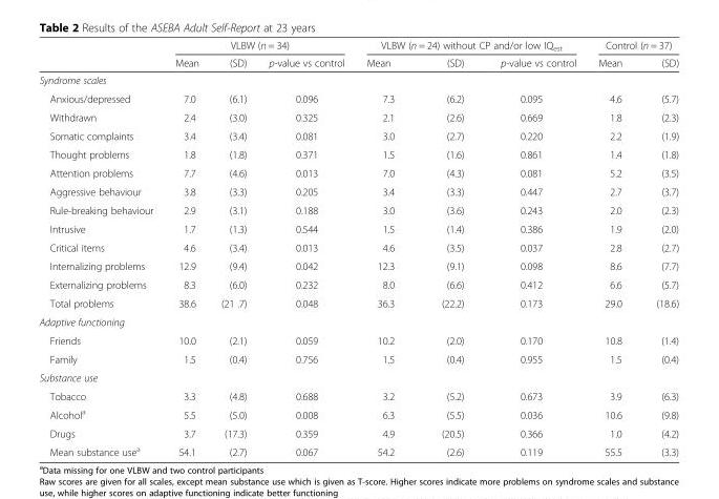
<table><thead><tr><td rowspan="2"></td><td colspan="3">VLBW (n = 34)</td><td colspan="3">VLBW (n = 24) without CP and/or low IQ<sub>est</sub></td><td colspan="2">Control (n = 37)</td></tr><tr><td>Mean</td><td>(SD)</td><td>p-value vs control</td><td>Mean</td><td>(SD)</td><td>p-value vs control</td><td>Mean</td><td>(SD)</td></tr></thead><tbody><tr><td colspan="9">Syndrome scales</td></tr><tr><td>Anxious/depressed</td><td>7.0</td><td>(6.1)</td><td>0.096</td><td>7.3</td><td>(6.2)</td><td>0.095</td><td>4.6</td><td>(5.7)</td></tr><tr><td>Withdrawn</td><td>2.4</td><td>(3.0)</td><td>0.325</td><td>2.1</td><td>(2.6)</td><td>0.669</td><td>1.8</td><td>(2.3)</td></tr><tr><td>Somatic complaints</td><td>3.4</td><td>(3.4)</td><td>0.081</td><td>3.0</td><td>(2.7)</td><td>0.220</td><td>2.2</td><td>(1.9)</td></tr><tr><td>Thought problems</td><td>1.8</td><td>(1.8)</td><td>0.371</td><td>1.5</td><td>(1.6)</td><td>0.861</td><td>1.4</td><td>(1.8)</td></tr><tr><td>Attention problems</td><td>7.7</td><td>(4.6)</td><td>0.013</td><td>7.0</td><td>(4.3)</td><td>0.081</td><td>5.2</td><td>(3.5)</td></tr><tr><td>Aggressive behaviour</td><td>3.8</td><td>(3.3)</td><td>0.205</td><td>3.4</td><td>(3.3)</td><td>0.447</td><td>2.7</td><td>(3.7)</td></tr><tr><td>Rule-breaking behaviour</td><td>2.9</td><td>(3.1)</td><td>0.188</td><td>3.0</td><td>(3.6)</td><td>0.243</td><td>2.0</td><td>(2.3)</td></tr><tr><td>Intrusive</td><td>1.7</td><td>(1.3)</td><td>0.544</td><td>1.5</td><td>(1.4)</td><td>0.386</td><td>1.9</td><td>(2.0)</td></tr><tr><td>Critical items</td><td>4.6</td><td>(3.4)</td><td>0.013</td><td>4.6</td><td>(3.5)</td><td>0.037</td><td>2.8</td><td>(2.7)</td></tr><tr><td>Internalizing problems</td><td>12.9</td><td>(9.4)</td><td>0.042</td><td>12.3</td><td>(9.1)</td><td>0.098</td><td>8.6</td><td>(7.7)</td></tr><tr><td>Externalizing problems</td><td>8.3</td><td>(6.0)</td><td>0.232</td><td>8.0</td><td>(6.6)</td><td>0.412</td><td>6.6</td><td>(5.7)</td></tr><tr><td>Total problems</td><td>38.6</td><td>(21 .7)</td><td>0.048</td><td>36.3</td><td>(22.2)</td><td>0.173</td><td>29.0</td><td>(18.6)</td></tr><tr><td colspan="9">Adaptive functioning</td></tr><tr><td>Friends</td><td>10.0</td><td>(2.1)</td><td>0.059</td><td>10.2</td><td>(2.0)</td><td>0.170</td><td>10.8</td><td>(1.4)</td></tr><tr><td>Family</td><td>1.5</td><td>(0.4)</td><td>0.756</td><td>1.5</td><td>(0.4)</td><td>0.955</td><td>1.5</td><td>(0.4)</td></tr><tr><td colspan="9">Substance use</td></tr><tr><td>Tobacco</td><td>3.3</td><td>(4.8)</td><td>0.688</td><td>3.2</td><td>(5.2)</td><td>0.673</td><td>3.9</td><td>(6.3)</td></tr><tr><td>Alcohol<sup>a</sup></td><td>5.5</td><td>(5.0)</td><td>0.008</td><td>6.3</td><td>(5.5)</td><td>0.036</td><td>10.6</td><td>(9.8)</td></tr><tr><td>Drugs</td><td>3.7</td><td>(17.3)</td><td>0.359</td><td>4.9</td><td>(20.5)</td><td>0.366</td><td>1.0</td><td>(4.2)</td></tr><tr><td>Mean substance use<sup>a</sup></td><td>54.1</td><td>(2.7)</td><td>0.067</td><td>54.2</td><td>(2.6)</td><td>0.119</td><td>55.5</td><td>(3.3)</td></tr></tbody></table>